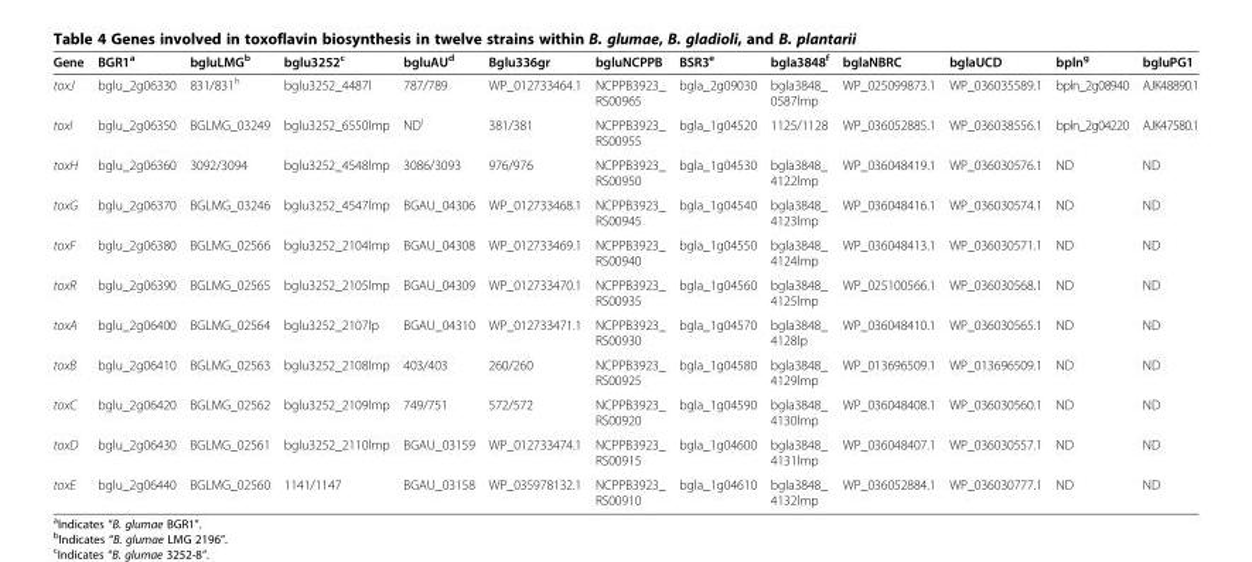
<table><thead><tr><td>Gene</td><td>BGR1<sup>a</sup></td><td>bgluLMG<sup>b</sup></td><td>bglu3252<sup>c</sup></td><td>bgluAU<sup>d</sup></td><td>Bglu336gr</td><td>bgluNCPPB</td><td>BSR3<sup>e</sup></td><td>bgla3848<sup>f</sup></td><td>bglaNBRC</td><td>bglaUCD</td><td>bpln<sup>g</sup></td><td>bgluPG1</td></tr></thead><tbody><tr><td>toxJ</td><td>bglu_2g06330</td><td>831/831<sup>h</sup></td><td>bglu3252_4487l</td><td>787/789</td><td>WP_012733464.1</td><td>NCPPB3923_ RS00965</td><td>bgla_2g09030</td><td>bgla3848_ 0587lmp</td><td>WP_025099873.1</td><td>WP_036035589.1</td><td>bpln_2g08940</td><td>AJK48890.1</td></tr><tr><td>toxI</td><td>bglu_2g06350</td><td>BGLMG_03249</td><td>bglu3252_6550lmp</td><td>ND<sup>i</sup></td><td>381/381</td><td>NCPPB3923_ RS00955</td><td>bgla_1g04520</td><td>1125/1128</td><td>WP_036052885.1</td><td>WP_036038556.1</td><td>bpln_2g04220</td><td>AJK47580.1</td></tr><tr><td>toxH</td><td>bglu_2g06360</td><td>3092/3094</td><td>bglu3252_4548lmp</td><td>3086/3093</td><td>976/976</td><td>NCPPB3923_ RS00950</td><td>bgla_1g04530</td><td>bgla3848_ 4122lmp</td><td>WP_036048419.1</td><td>WP_036030576.1</td><td>ND</td><td>ND</td></tr><tr><td>toxG</td><td>bglu_2g06370</td><td>BGLMG_03246</td><td>bglu3252_4547lmp</td><td>BGAU_04306</td><td>WP_012733468.1</td><td>NCPPB3923_ RS00945</td><td>bgla_1g04540</td><td>bgla3848_ 4123lmp</td><td>WP_036048416.1</td><td>WP_036030574.1</td><td>ND</td><td>ND</td></tr><tr><td>toxF</td><td>bglu_2g06380</td><td>BGLMG_02566</td><td>bglu3252_2104lmp</td><td>BGAU_04308</td><td>WP_012733469.1</td><td>NCPPB3923_ RS00940</td><td>bgla_1g04550</td><td>bgla3848_ 4124lmp</td><td>WP_036048413.1</td><td>WP_036030571.1</td><td>ND</td><td>ND</td></tr><tr><td>toxR</td><td>bglu_2g06390</td><td>BGLMG_02565</td><td>bglu3252_2105lmp</td><td>BGAU_04309</td><td>WP_012733470.1</td><td>NCPPB3923_ RS00935</td><td>bgla_1g04560</td><td>bgla3848_ 4125lmp</td><td>WP_025100566.1</td><td>WP_036030568.1</td><td>ND</td><td>ND</td></tr><tr><td>toxA</td><td>bglu_2g06400</td><td>BGLMG_02564</td><td>bglu3252_2107lp</td><td>BGAU_04310</td><td>WP_012733471.1</td><td>NCPPB3923_ RS00930</td><td>bgla_1g04570</td><td>bgla3848_ 4128lp</td><td>WP_036048410.1</td><td>WP_036030565.1</td><td>ND</td><td>ND</td></tr><tr><td>toxB</td><td>bglu_2g06410</td><td>BGLMG_02563</td><td>bglu3252_2108lmp</td><td>403/403</td><td>260/260</td><td>NCPPB3923_ RS00925</td><td>bgla_1g04580</td><td>bgla3848_ 4129lmp</td><td>WP_013696509.1</td><td>WP_013696509.1</td><td>ND</td><td>ND</td></tr><tr><td>toxC</td><td>bglu_2g06420</td><td>BGLMG_02562</td><td>bglu3252_2109lmp</td><td>749/751</td><td>572/572</td><td>NCPPB3923_ RS00920</td><td>bgla_1g04590</td><td>bgla3848_ 4130lmp</td><td>WP_036048408.1</td><td>WP_036030560.1</td><td>ND</td><td>ND</td></tr><tr><td>toxD</td><td>bglu_2g06430</td><td>BGLMG_02561</td><td>bglu3252_2110lmp</td><td>BGAU_03159</td><td>WP_012733474.1</td><td>NCPPB3923_ RS00915</td><td>bgla_1g04600</td><td>bgla3848_ 4131lmp</td><td>WP_036048407.1</td><td>WP_036030557.1</td><td>ND</td><td>ND</td></tr><tr><td>toxE</td><td>bglu_2g06440</td><td>BGLMG_02560</td><td>1141/1147</td><td>BGAU_03158</td><td>WP_035978132.1</td><td>NCPPB3923_ RS00910</td><td>bgla_1g04610</td><td>bgla3848_ 4132lmp</td><td>WP_036052884.1</td><td>WP_036030777.1</td><td>ND</td><td>ND</td></tr></tbody></table>